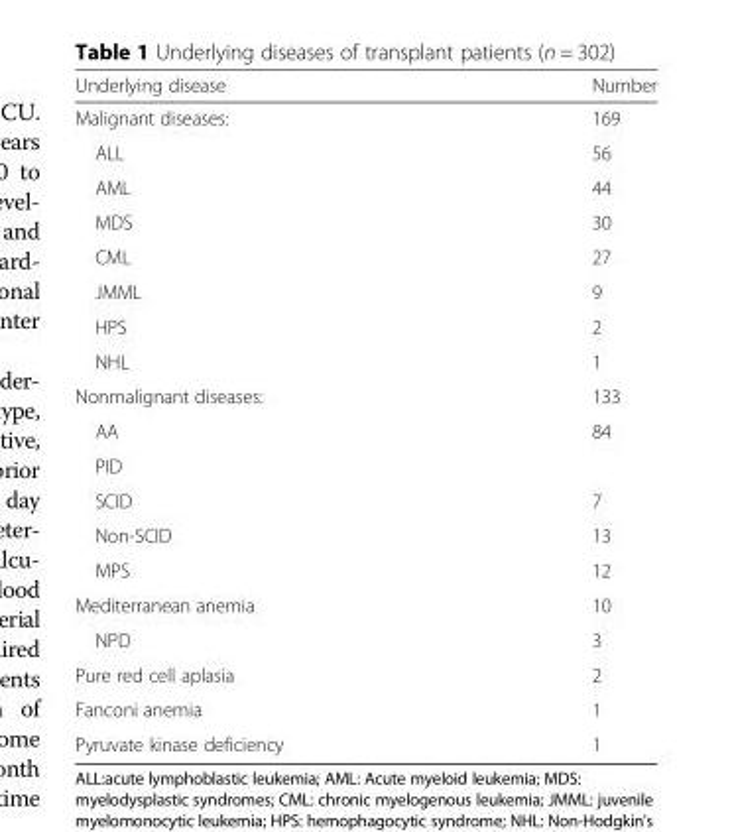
<table><thead><tr><td>Underlying disease</td><td>Number</td></tr></thead><tbody><tr><td>Malignant diseases:</td><td>169</td></tr><tr><td>ALL</td><td>56</td></tr><tr><td>AML</td><td>44</td></tr><tr><td>MDS</td><td>30</td></tr><tr><td>CML</td><td>27</td></tr><tr><td>JMML</td><td>9</td></tr><tr><td>HPS</td><td>2</td></tr><tr><td>NHL</td><td>1</td></tr><tr><td>Nonmalignant diseases:</td><td>133</td></tr><tr><td>AA</td><td>84</td></tr><tr><td colspan="2">PID</td></tr><tr><td>SCID</td><td>7</td></tr><tr><td>Non-SCID</td><td>13</td></tr><tr><td>MPS</td><td>12</td></tr><tr><td>Mediterranean anemia</td><td>10</td></tr><tr><td>NPD</td><td>3</td></tr><tr><td>Pure red cell aplasia</td><td>2</td></tr><tr><td>Fanconi anemia</td><td>1</td></tr><tr><td>Pyruvate kinase deficiency</td><td>1</td></tr></tbody></table>